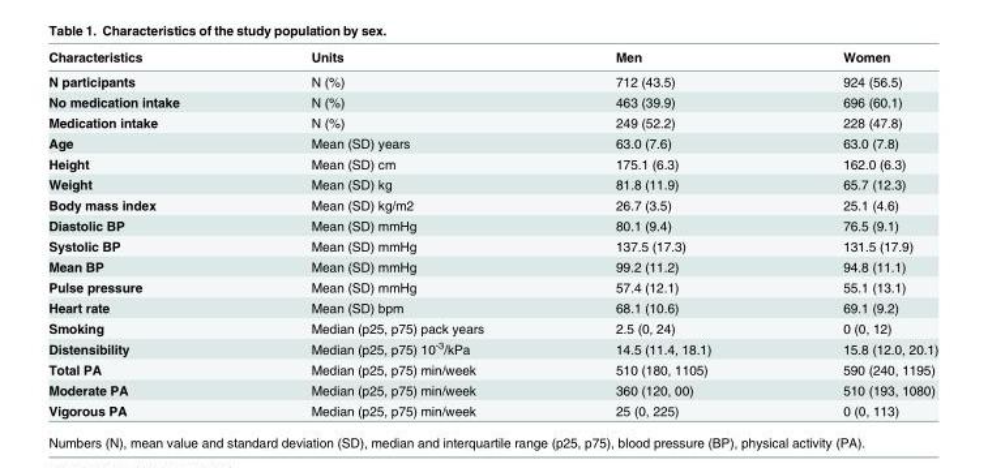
<table><thead><tr><td>Characteristics</td><td>Units</td><td>Men</td><td>Women</td></tr></thead><tbody><tr><td>N participants</td><td>N (%)</td><td>712 (43.5)</td><td>924 (56.5)</td></tr><tr><td>No medication intake</td><td>N (%)</td><td>463 (39.9)</td><td>696 (60.1)</td></tr><tr><td>Medication intake</td><td>N (%)</td><td>249 (52.2)</td><td>228 (47.8)</td></tr><tr><td>Age</td><td>Mean (SD) years</td><td>63.0 (7.6)</td><td>63.0 (7.8)</td></tr><tr><td>Height</td><td>Mean (SD) cm</td><td>175.1 (6.3)</td><td>162.0 (6.3)</td></tr><tr><td>Weight</td><td>Mean (SD) kg</td><td>81.8 (11.9)</td><td>65.7 (12.3)</td></tr><tr><td>Body mass index</td><td>Mean (SD) kg/m2</td><td>26.7 (3.5)</td><td>25.1 (4.6)</td></tr><tr><td>Diastolic BP</td><td>Mean (SD) mmHg</td><td>80.1 (9.4)</td><td>76.5 (9.1)</td></tr><tr><td>Systolic BP</td><td>Mean (SD) mmHg</td><td>137.5 (17.3)</td><td>131.5 (17.9)</td></tr><tr><td>Mean BP</td><td>Mean (SD) mmHg</td><td>99.2 (11.2)</td><td>94.8 (11.1)</td></tr><tr><td>Pulse pressure</td><td>Mean (SD) mmHg</td><td>57.4 (12.1)</td><td>55.1 (13.1)</td></tr><tr><td>Heart rate</td><td>Mean (SD) bpm</td><td>68.1 (10.6)</td><td>69.1 (9.2)</td></tr><tr><td>Smoking</td><td>Median (p25, p75) pack years</td><td>2.5 (0, 24)</td><td>0 (0, 12)</td></tr><tr><td>Distensibility</td><td>Median (p25, p75) 10<sup>-3</sup>/kPa</td><td>14.5 (11.4, 18.1)</td><td>15.8 (12.0, 20.1)</td></tr><tr><td>Total PA</td><td>Median (p25, p75) min/week</td><td>510 (180, 1105)</td><td>590 (240, 1195)</td></tr><tr><td>Moderate PA</td><td>Median (p25, p75) min/week</td><td>360 (120, 00)</td><td>510 (193, 1080)</td></tr><tr><td>Vigorous PA</td><td>Median (p25, p75) min/week</td><td>25 (0, 225)</td><td>0 (0, 113)</td></tr></tbody></table>